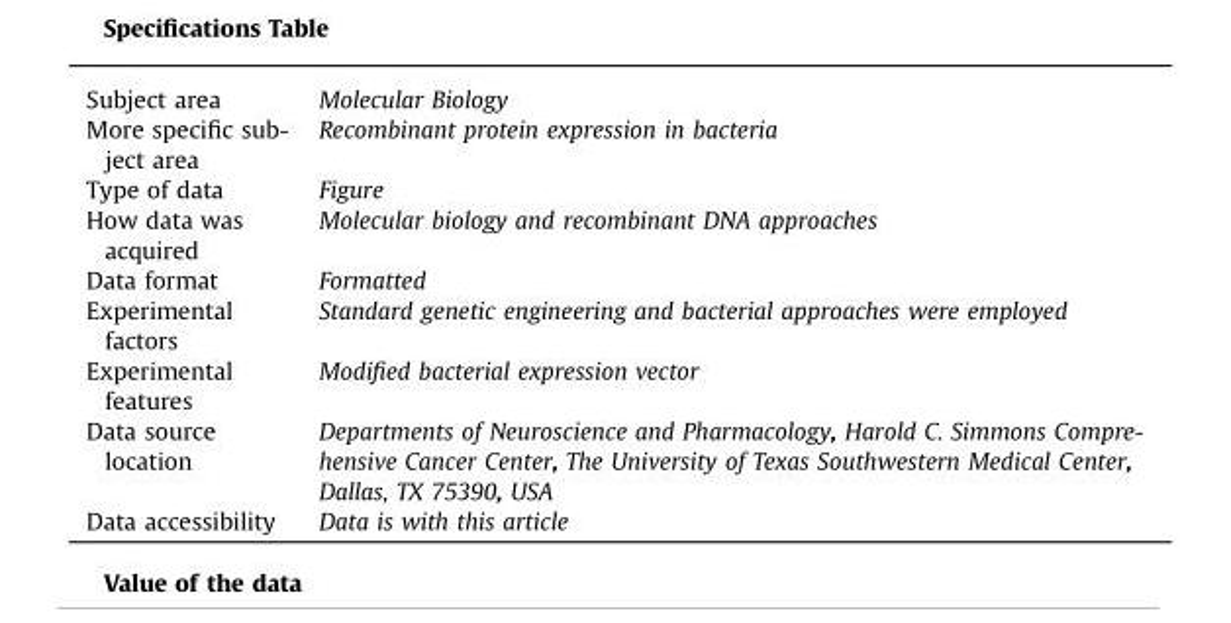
<table><tbody><tr><td>Subject area</td><td>Molecular Biology</td></tr><tr><td>More specific sub- ject area</td><td>Recombinant protein expression in bacteria</td></tr><tr><td>Type of data</td><td>Figure</td></tr><tr><td>How data was acquired</td><td>Molecular biology and recombinant DNA approaches</td></tr><tr><td>Data format</td><td>Formatted</td></tr><tr><td>Experimental factors</td><td>Standard genetic engineering and bacterial approaches were employed</td></tr><tr><td>Experimental features</td><td>Modified bacterial expression vector</td></tr><tr><td>Data source location</td><td>Departments of Neuroscience and Pharmacology, Harold C. Simmons Compre- hensive Cancer Center, The University of Texas Southwestern Medical Center, Dallas, TX 75390, USA</td></tr><tr><td>Data accessibility</td><td>Data is with this article</td></tr></tbody></table>